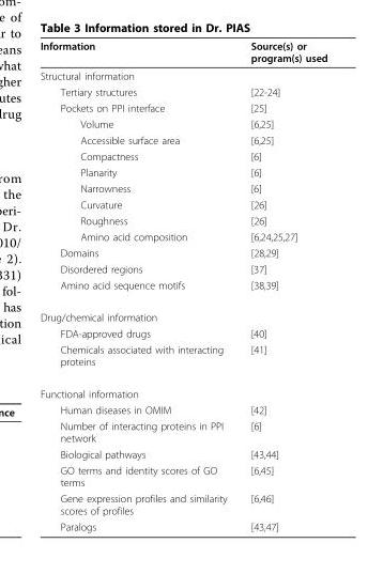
<table><thead><tr><td>Information</td><td>Source(s) or program(s) used</td></tr></thead><tbody><tr><td colspan="2">Structural information</td></tr><tr><td>Tertiary structures</td><td>[22-24]</td></tr><tr><td>Pockets on PPI interface</td><td>[25]</td></tr><tr><td>Volume</td><td>[6,25]</td></tr><tr><td>Accessible surface area</td><td>[6,25]</td></tr><tr><td>Compactness</td><td>[6]</td></tr><tr><td>Planarity</td><td>[6]</td></tr><tr><td>Narrowness</td><td>[6]</td></tr><tr><td>Curvature</td><td>[26]</td></tr><tr><td>Roughness</td><td>[26]</td></tr><tr><td>Amino acid composition</td><td>[6,24,25,27]</td></tr><tr><td>Domains</td><td>[28,29]</td></tr><tr><td>Disordered regions</td><td>[37]</td></tr><tr><td>Amino acid sequence motifs</td><td>[38,39]</td></tr><tr><td colspan="2">Drug/chemical information</td></tr><tr><td>FDA-approved drugs</td><td>[40]</td></tr><tr><td>Chemicals associated with interacting proteins</td><td>[41]</td></tr><tr><td colspan="2">Functional information</td></tr><tr><td>Human diseases in OMIM</td><td>[42]</td></tr><tr><td>Number of interacting proteins in PPI network</td><td>[6]</td></tr><tr><td>Biological pathways</td><td>[43,44]</td></tr><tr><td>GO terms and identity scores of GO terms</td><td>[6,45]</td></tr><tr><td>Gene expression profiles and similarity scores of profiles</td><td>[6,46]</td></tr><tr><td>Paralogs</td><td>[43,47]</td></tr></tbody></table>